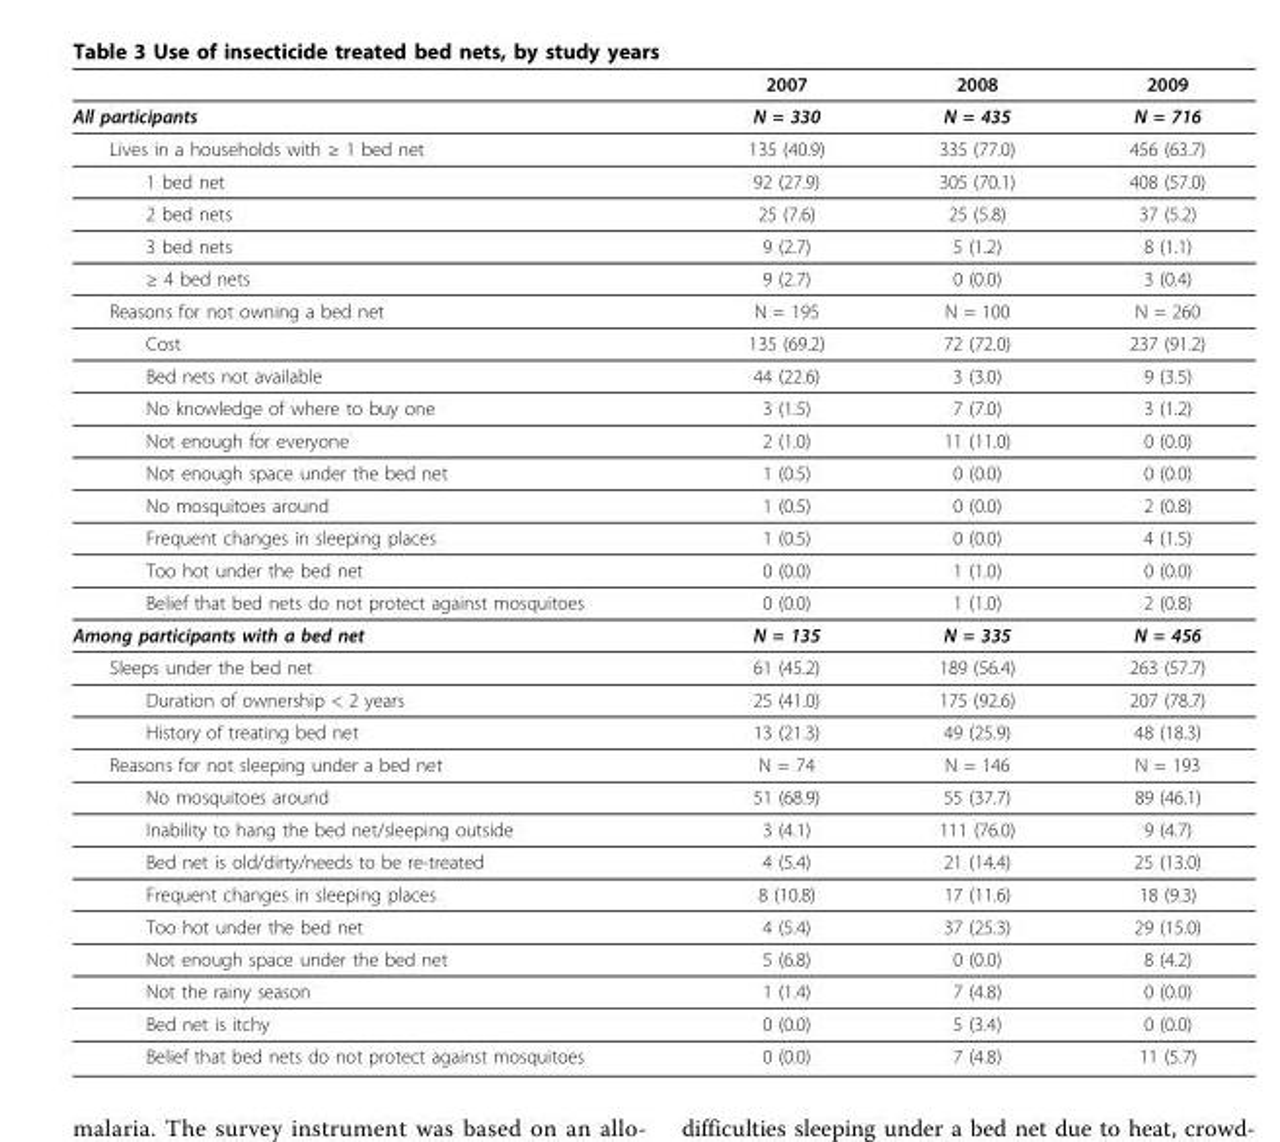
<table><thead><tr><td></td><td>2007</td><td>2008</td><td>2009</td></tr></thead><tbody><tr><td>All participants</td><td>N = 330</td><td>N = 435</td><td>N = 716</td></tr><tr><td>Lives in a households with ≥ 1 bed net</td><td>135 (40.9)</td><td>335 (77.0)</td><td>456 (63.7)</td></tr><tr><td>1 bed net</td><td>92 (27.9)</td><td>305 (70.1)</td><td>408 (57.0)</td></tr><tr><td>2 bed nets</td><td>25 (7.6)</td><td>25 (5.8)</td><td>37 (5.2)</td></tr><tr><td>3 bed nets</td><td>9 (2.7)</td><td>5 (1.2)</td><td>8 (1.1)</td></tr><tr><td>≥ 4 bed nets</td><td>9 (2.7)</td><td>0 (0.0)</td><td>3 (0.4)</td></tr><tr><td>Reasons for not owning a bed net</td><td>N = 195</td><td>N = 100</td><td>N = 260</td></tr><tr><td>Cost</td><td>135 (69.2)</td><td>72 (72.0)</td><td>237 (91.2)</td></tr><tr><td>Bed nets not available</td><td>44 (22.6)</td><td>3 (3.0)</td><td>9 (3.5)</td></tr><tr><td>No knowledge of where to buy one</td><td>3 (1.5)</td><td>7 (7.0)</td><td>3 (1.2)</td></tr><tr><td>Not enough for everyone</td><td>2 (1.0)</td><td>11 (11.0)</td><td>0 (0.0)</td></tr><tr><td>Not enough space under the bed net</td><td>1 (0.5)</td><td>0 (0.0)</td><td>0 (0.0)</td></tr><tr><td>No mosquitoes around</td><td>1 (0.5)</td><td>0 (0.0)</td><td>2 (0.8)</td></tr><tr><td>Frequent changes in sleeping places</td><td>1 (0.5)</td><td>0 (0.0)</td><td>4 (1.5)</td></tr><tr><td>Too hot under the bed net</td><td>0 (0.0)</td><td>1 (1.0)</td><td>0 (0.0)</td></tr><tr><td>Belief that bed nets do not protect against mosquitoes</td><td>0 (0.0)</td><td>1 (1.0)</td><td>2 (0.8)</td></tr><tr><td>Among participants with a bed net</td><td>N = 135</td><td>N = 335</td><td>N = 456</td></tr><tr><td>Sleeps under the bed net</td><td>61 (45.2)</td><td>189 (56.4)</td><td>263 (57.7)</td></tr><tr><td>Duration of ownership &lt; 2 years</td><td>25 (41.0)</td><td>175 (92.6)</td><td>207 (78.7)</td></tr><tr><td>History of treating bed net</td><td>13 (21.3)</td><td>49 (25.9)</td><td>48 (18.3)</td></tr><tr><td>Reasons for not sleeping under a bed net</td><td>N = 74</td><td>N = 146</td><td>N = 193</td></tr><tr><td>No mosquitoes around</td><td>51 (68.9)</td><td>55 (37.7)</td><td>89 (46.1)</td></tr><tr><td>Inability to hang the bed net/sleeping outside</td><td>3 (4.1)</td><td>111 (76.0)</td><td>9 (4.7)</td></tr><tr><td>Bed net is old/dirty/needs to be re-treated</td><td>4 (5.4)</td><td>21 (14.4)</td><td>25 (13.0)</td></tr><tr><td>Frequent changes in sleeping places</td><td>8 (10.8)</td><td>17 (11.6)</td><td>18 (9.3)</td></tr><tr><td>Too hot under the bed net</td><td>4 (5.4)</td><td>37 (25.3)</td><td>29 (15.0)</td></tr><tr><td>Not enough space under the bed net</td><td>5 (6.8)</td><td>0 (0.0)</td><td>8 (4.2)</td></tr><tr><td>Not the rainy season</td><td>1 (1.4)</td><td>7 (4.8)</td><td>0 (0.0)</td></tr><tr><td>Bed net is itchy</td><td>0 (0.0)</td><td>5 (3.4)</td><td>0 (0.0)</td></tr><tr><td>Belief that bed nets do not protect against mosquitoes</td><td>0 (0.0)</td><td>7 (4.8)</td><td>11 (5.7)</td></tr></tbody></table>